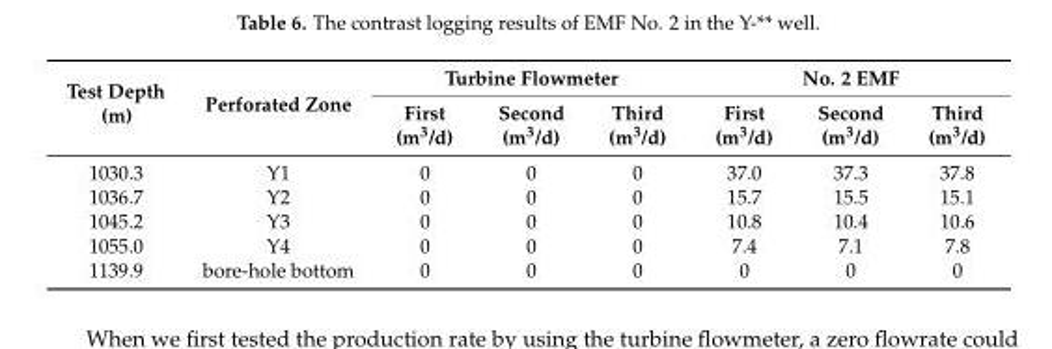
<table><thead><tr><td rowspan="2">Test Depth (m)</td><td rowspan="2">Perforated Zone</td><td colspan="3">Turbine Flowmeter</td><td colspan="3">No. 2 EMF</td></tr><tr><td>First (m<sup>3</sup>/d)</td><td>Second (m<sup>3</sup>/d)</td><td>Third (m<sup>3</sup>/d)</td><td>First (m<sup>3</sup>/d)</td><td>Second (m<sup>3</sup>/d)</td><td>Third (m<sup>3</sup>/d)</td></tr></thead><tbody><tr><td>1030.3</td><td>Y1</td><td>0</td><td>0</td><td>0</td><td>37.0</td><td>37.3</td><td>37.8</td></tr><tr><td>1036.7</td><td>Y2</td><td>0</td><td>0</td><td>0</td><td>15.7</td><td>15.5</td><td>15.1</td></tr><tr><td>1045.2</td><td>Y3</td><td>0</td><td>0</td><td>0</td><td>10.8</td><td>10.4</td><td>10.6</td></tr><tr><td>1055.0</td><td>Y4</td><td>0</td><td>0</td><td>0</td><td>7.4</td><td>7.1</td><td>7.8</td></tr><tr><td>1139.9</td><td>bore-hole bottom</td><td>0</td><td>0</td><td>0</td><td>0</td><td>0</td><td>0</td></tr></tbody></table>